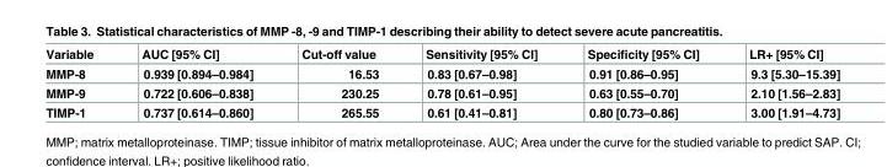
<table><thead><tr><td>Variable</td><td>AUC [95% CI]</td><td>Cut-off value</td><td>Sensitivity [95% CI]</td><td>Specificity [95% CI]</td><td>LR+ [95% CI]</td></tr></thead><tbody><tr><td>MMP-8</td><td>0.939 [0.894–0.984]</td><td>16.53</td><td>0.83 [0.67–0.98]</td><td>0.91 [0.86–0.95]</td><td>9.3 [5.30–15.39]</td></tr><tr><td>MMP-9</td><td>0.722 [0.606–0.838]</td><td>230.25</td><td>0.78 [0.61–0.95]</td><td>0.63 [0.55–0.70]</td><td>2.10 [1.56–2.83]</td></tr><tr><td>TIMP-1</td><td>0.737 [0.614–0.860]</td><td>265.55</td><td>0.61 [0.41–0.81]</td><td>0.80 [0.73–0.86]</td><td>3.00 [1.91–4.73]</td></tr></tbody></table>